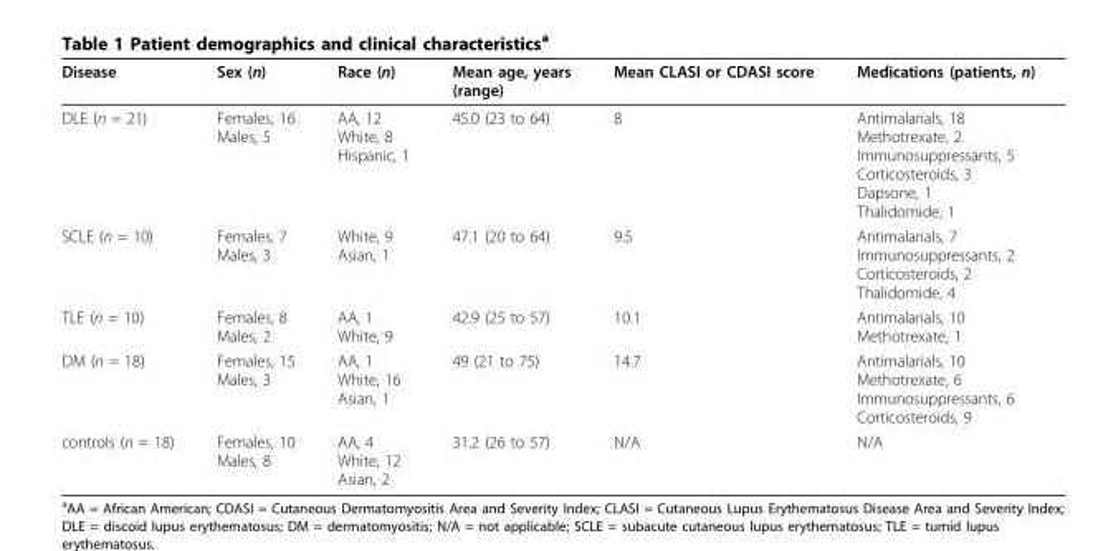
<table><thead><tr><td>Disease</td><td>Sex (n)</td><td>Race (n)</td><td>Mean age, years (range)</td><td>Mean CLASI or CDASI score</td><td>Medications (patients, n)</td></tr></thead><tbody><tr><td>DLE (n = 21)</td><td>Females, 16 Males, 5</td><td>AA, 12 White, 8 Hispanic, 1</td><td>45.0 (23 to 64)</td><td>8</td><td>Antimalarials, 18 Methotrexate, 2 Immunosuppressants, 5 Corticosteroids, 3 Dapsone, 1 Thalidomide, 1</td></tr><tr><td>SCLE (n = 10)</td><td>Females, 7 Males, 3</td><td>White, 9 Asian, 1</td><td>47.1 (20 to 64)</td><td>9.5</td><td>Antimalarials, 7 Immunosuppressants, 2 Corticosteroids, 2 Thalidomide, 4</td></tr><tr><td>TLE (n = 10)</td><td>Females, 8 Males, 2</td><td>AA, 1 White, 9</td><td>42.9 (25 to 57)</td><td>10.1</td><td>Antimalarials, 10 Methotrexate, 1</td></tr><tr><td>DM (n = 18)</td><td>Females, 15 Males, 3</td><td>AA, 1 White, 16 Asian, 1</td><td>49 (21 to 75)</td><td>14.7</td><td>Antimalarials, 10 Methotrexate, 6 Immunosuppressants, 6 Corticosteroids, 9</td></tr><tr><td>controls (n = 18)</td><td>Females, 10 Males, 8</td><td>AA, 4 White, 12 Asian, 2</td><td>31.2 (26 to 57)</td><td>N/A</td><td>N/A</td></tr></tbody></table>